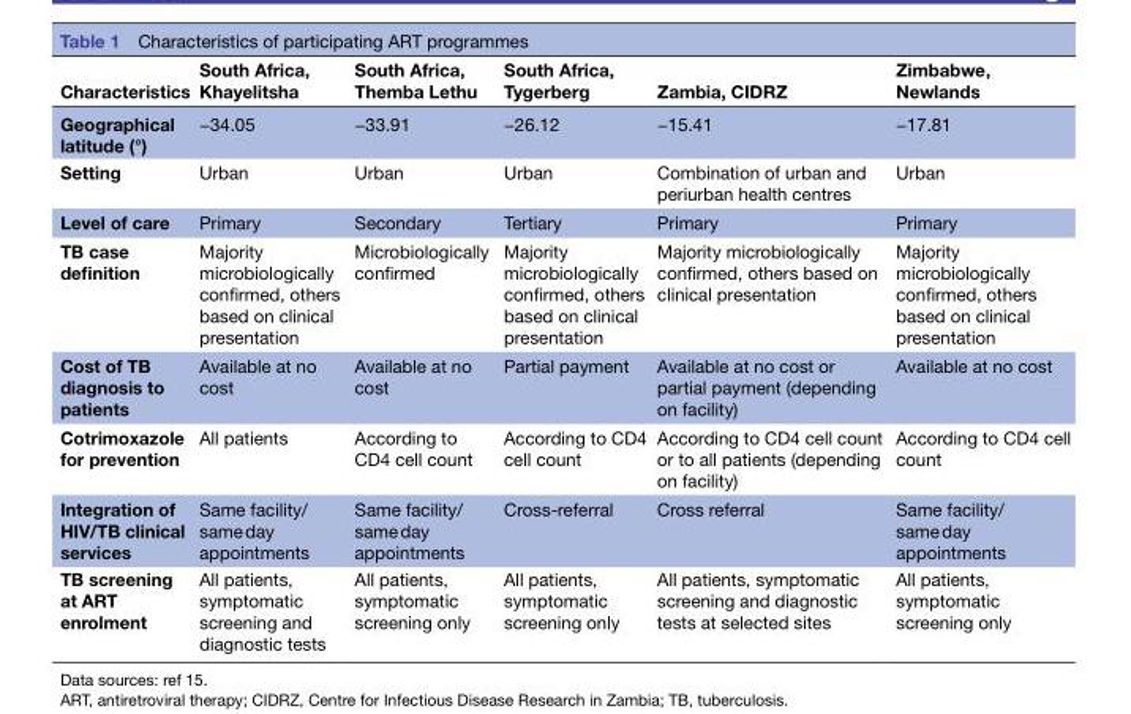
<table><thead><tr><td>Characteristics</td><td>South Africa, Khayelitsha</td><td>South Africa, Themba Lethu</td><td>South Africa, Tygerberg</td><td>Zambia, CIDRZ</td><td>Zimbabwe, Newlands</td></tr></thead><tbody><tr><td>Geographical latitude (°)</td><td>−34.05</td><td>−33.91</td><td>−26.12</td><td>−15.41</td><td>−17.81</td></tr><tr><td>Setting</td><td>Urban</td><td>Urban</td><td>Urban</td><td>Combination of urban and periurban health centres</td><td>Urban</td></tr><tr><td>Level of care</td><td>Primary</td><td>Secondary</td><td>Tertiary</td><td>Primary</td><td>Primary</td></tr><tr><td>TB case definition</td><td>Majority microbiologically confirmed, others based on clinical presentation</td><td>Microbiologically confirmed</td><td>Majority microbiologically confirmed, others based on clinical presentation</td><td>Majority microbiologically confirmed, others based on clinical presentation</td><td>Majority microbiologically confirmed, others based on clinical presentation</td></tr><tr><td>Cost of TB diagnosis to patients</td><td>Available at no cost</td><td>Available at no cost</td><td>Partial payment</td><td>Available at no cost or partial payment (depending on facility)</td><td>Available at no cost</td></tr><tr><td>Cotrimoxazole for prevention</td><td>All patients</td><td>According to CD4 cell count</td><td>According to CD4 cell count</td><td>According to CD4 cell count or to all patients (depending on facility)</td><td>According to CD4 cell count</td></tr><tr><td>Integration of HIV/TB clinical services</td><td>Same facility/ same day appointments</td><td>Same facility/ same day appointments</td><td>Cross-referral</td><td>Cross referral</td><td>Same facility/ same day appointments</td></tr><tr><td>TB screening at ART enrolment</td><td>All patients, symptomatic screening and diagnostic tests</td><td>All patients, symptomatic screening only</td><td>All patients, symptomatic screening only</td><td>All patients, symptomatic screening and diagnostic tests at selected sites</td><td>All patients, symptomatic screening only</td></tr></tbody></table>